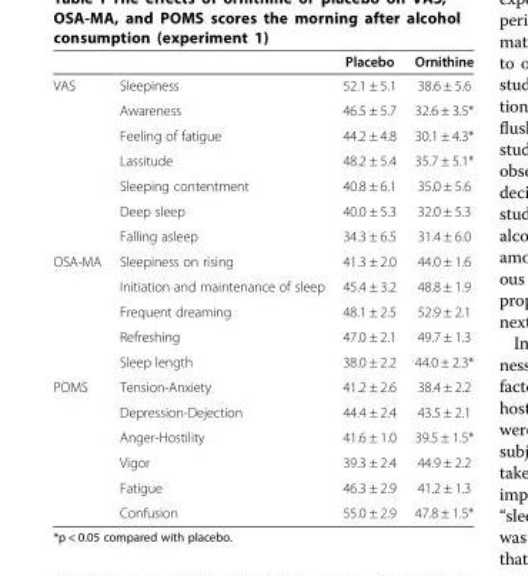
<table><thead><tr><td></td><td></td><td>Placebo</td><td>Ornithine</td></tr></thead><tbody><tr><td rowspan="7">VAS</td><td>Sleepiness</td><td>52.1 ± 5.1</td><td>38.6 ± 5.6</td></tr><tr><td>Awareness</td><td>46.5 ± 5.7</td><td>32.6 ± 3.5*</td></tr><tr><td>Feeling of fatigue</td><td>44.2 ± 4.8</td><td>30.1 ± 4.3*</td></tr><tr><td>Lassitude</td><td>48.2 ± 5.4</td><td>35.7 ± 5.1*</td></tr><tr><td>Sleeping contentment</td><td>40.8 ± 6.1</td><td>35.0 ± 5.6</td></tr><tr><td>Deep sleep</td><td>40.0 ± 5.3</td><td>32.0 ± 5.3</td></tr><tr><td>Falling asleep</td><td>34.3 ± 6.5</td><td>31.4 ± 6.0</td></tr><tr><td rowspan="5">OSA-MA</td><td>Sleepiness on rising</td><td>41.3 ± 2.0</td><td>44.0 ± 1.6</td></tr><tr><td>Initiation and maintenance of sleep</td><td>45.4 ± 3.2</td><td>48.8 ± 1.9</td></tr><tr><td>Frequent dreaming</td><td>48.1 ± 2.5</td><td>52.9 ± 2.1</td></tr><tr><td>Refreshing</td><td>47.0 ± 2.1</td><td>49.7 ± 1.3</td></tr><tr><td>Sleep length</td><td>38.0 ± 2.2</td><td>44.0 ± 2.3*</td></tr><tr><td rowspan="6">POMS</td><td>Tension-Anxiety</td><td>41.2 ± 2.6</td><td>38.4 ± 2.2</td></tr><tr><td>Depression-Dejection</td><td>44.4 ± 2.4</td><td>43.5 ± 2.1</td></tr><tr><td>Anger-Hostility</td><td>41.6 ± 1.0</td><td>39.5 ± 1.5*</td></tr><tr><td>Vigor</td><td>39.3 ± 2.4</td><td>44.9 ± 2.2</td></tr><tr><td>Fatigue</td><td>46.3 ± 2.9</td><td>41.2 ± 1.3</td></tr><tr><td>Confusion</td><td>55.0 ± 2.9</td><td>47.8 ± 1.5*</td></tr></tbody></table>